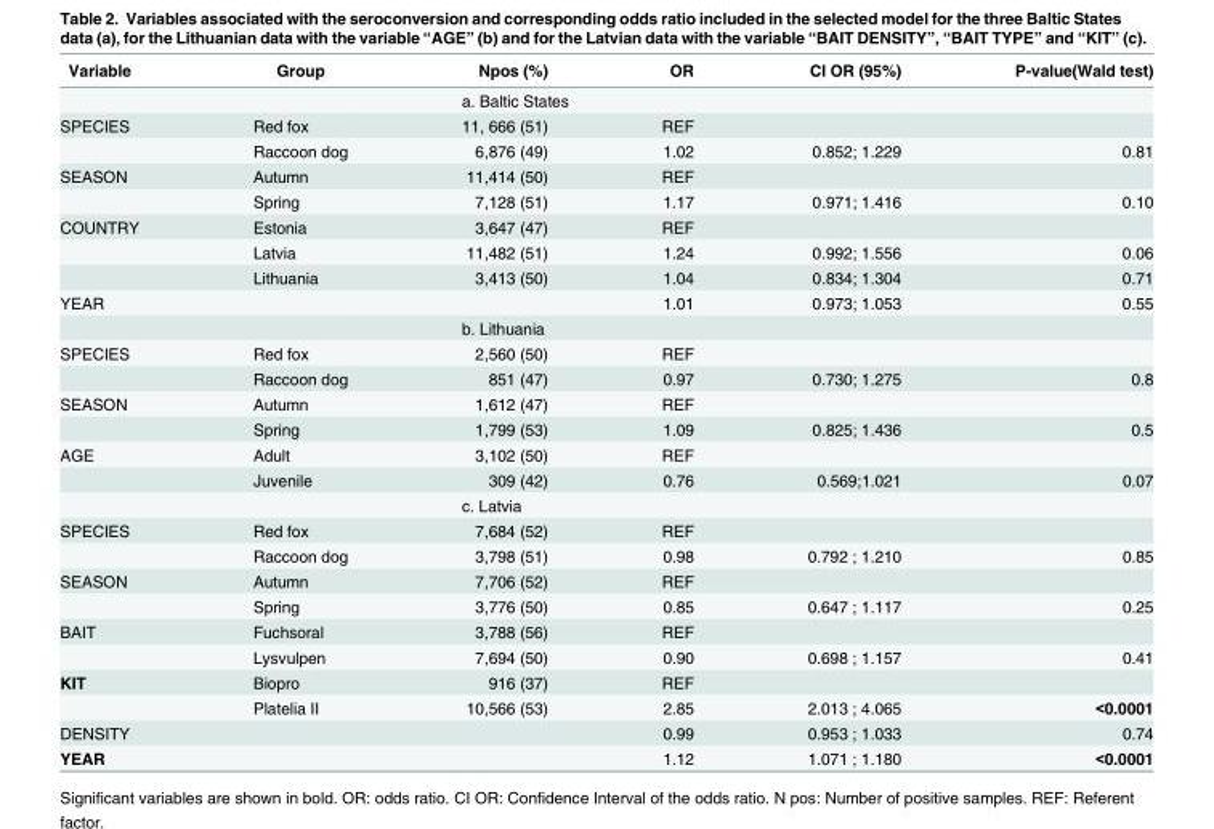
<table><thead><tr><td>Variable</td><td>Group</td><td>Npos (%)</td><td>OR</td><td>CI OR (95%)</td><td>P-value(Wald test)</td></tr></thead><tbody><tr><td></td><td></td><td colspan="4">a. Baltic States</td></tr><tr><td rowspan="2">SPECIES</td><td>Red fox</td><td>11, 666 (51)</td><td>REF</td><td></td><td></td></tr><tr><td>Raccoon dog</td><td>6,876 (49)</td><td>1.02</td><td>0.852; 1.229</td><td>0.81</td></tr><tr><td rowspan="2">SEASON</td><td>Autumn</td><td>11,414 (50)</td><td>REF</td><td></td><td></td></tr><tr><td>Spring</td><td>7,128 (51)</td><td>1.17</td><td>0.971; 1.416</td><td>0.10</td></tr><tr><td rowspan="3">COUNTRY</td><td>Estonia</td><td>3,647 (47)</td><td>REF</td><td></td><td></td></tr><tr><td>Latvia</td><td>11,482 (51)</td><td>1.24</td><td>0.992; 1.556</td><td>0.06</td></tr><tr><td>Lithuania</td><td>3,413 (50)</td><td>1.04</td><td>0.834; 1.304</td><td>0.71</td></tr><tr><td rowspan="2">YEAR</td><td></td><td></td><td>1.01</td><td>0.973; 1.053</td><td>0.55</td></tr><tr><td></td><td colspan="4">b. Lithuania</td></tr><tr><td rowspan="2">SPECIES</td><td>Red fox</td><td>2,560 (50)</td><td>REF</td><td></td><td></td></tr><tr><td>Raccoon dog</td><td>851 (47)</td><td>0.97</td><td>0.730; 1.275</td><td>0.8</td></tr><tr><td rowspan="2">SEASON</td><td>Autumn</td><td>1,612 (47)</td><td>REF</td><td></td><td></td></tr><tr><td>Spring</td><td>1,799 (53)</td><td>1.09</td><td>0.825; 1.436</td><td>0.5</td></tr><tr><td rowspan="3">AGE</td><td>Adult</td><td>3,102 (50)</td><td>REF</td><td></td><td></td></tr><tr><td>Juvenile</td><td>309 (42)</td><td>0.76</td><td>0.569;1.021</td><td>0.07</td></tr><tr><td></td><td colspan="4">c. Latvia</td></tr><tr><td rowspan="2">SPECIES</td><td>Red fox</td><td>7,684 (52)</td><td>REF</td><td></td><td></td></tr><tr><td>Raccoon dog</td><td>3,798 (51)</td><td>0.98</td><td>0.792 ; 1.210</td><td>0.85</td></tr><tr><td rowspan="2">SEASON</td><td>Autumn</td><td>7,706 (52)</td><td>REF</td><td></td><td></td></tr><tr><td>Spring</td><td>3,776 (50)</td><td>0.85</td><td>0.647 ; 1.117</td><td>0.25</td></tr><tr><td rowspan="2">BAIT</td><td>Fuchsoral</td><td>3,788 (56)</td><td>REF</td><td></td><td></td></tr><tr><td>Lysvulpen</td><td>7,694 (50)</td><td>0.90</td><td>0.698 ; 1.157</td><td>0.41</td></tr><tr><td rowspan="2">KIT</td><td>Biopro</td><td>916 (37)</td><td>REF</td><td></td><td></td></tr><tr><td>Platelia II</td><td>10,566 (53)</td><td>2.85</td><td>2.013 ; 4.065</td><td>&lt;0.0001</td></tr><tr><td>DENSITY</td><td></td><td></td><td>0.99</td><td>0.953 ; 1.033</td><td>0.74</td></tr><tr><td>YEAR</td><td></td><td></td><td>1.12</td><td>1.071 ; 1.180</td><td>&lt;0.0001</td></tr></tbody></table>